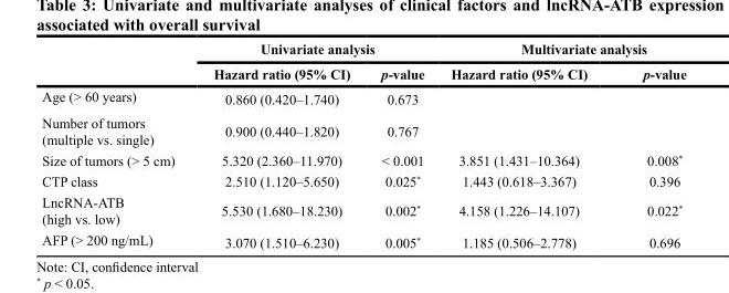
<table><thead><tr><td rowspan="2"></td><td colspan="2">Univariate analysis</td><td colspan="2">Multivariate analysis</td></tr><tr><td>Hazard ratio (95% CI)</td><td>p-value</td><td>Hazard ratio (95% CI)</td><td>p-value</td></tr></thead><tbody><tr><td>Age (&gt; 60 years)</td><td>0.860 (0.420–1.740)</td><td>0.673</td><td></td><td></td></tr><tr><td>Number of tumors (multiple vs. single)</td><td>0.900 (0.440–1.820)</td><td>0.767</td><td></td><td></td></tr><tr><td>Size of tumors (&gt; 5 cm)</td><td>5.320 (2.360–11.970)</td><td>&lt; 0.001</td><td>3.851 (1.431–10.364)</td><td>0.008*</td></tr><tr><td>CTP class</td><td>2.510 (1.120–5.650)</td><td>0.025*</td><td>1.443 (0.618–3.367)</td><td>0.396</td></tr><tr><td>LncRNA-ATB (high vs. low)</td><td>5.530 (1.680–18.230)</td><td>0.002*</td><td>4.158 (1.226–14.107)</td><td>0.022*</td></tr><tr><td>AFP (&gt; 200 ng/mL)</td><td>3.070 (1.510–6.230)</td><td>0.005*</td><td>1.185 (0.506–2.778)</td><td>0.696</td></tr></tbody></table>